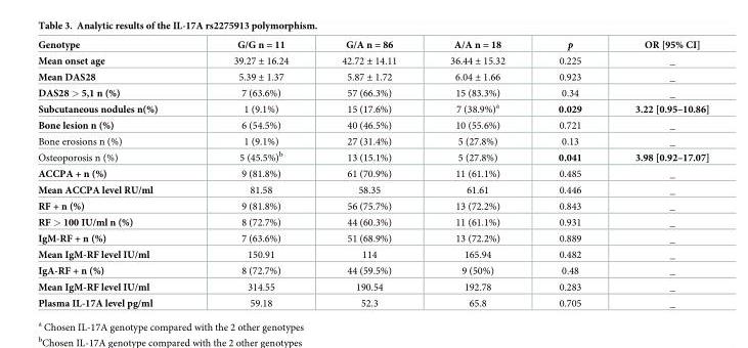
<table><thead><tr><td>Genotype</td><td>G/G n = 11</td><td>G/A n = 86</td><td>A/A n = 18</td><td>p</td><td>OR [95% CI]</td></tr></thead><tbody><tr><td>Mean onset age</td><td>39.27 ± 16.24</td><td>42.72 ± 14.11</td><td>36.44 ± 15.32</td><td>0.225</td><td>_</td></tr><tr><td>Mean DAS28</td><td>5.39 ± 1.37</td><td>5.87 ± 1.72</td><td>6.04 ± 1.66</td><td>0.923</td><td>_</td></tr><tr><td>DAS28 &gt; 5,1 n (%)</td><td>7 (63.6%)</td><td>57 (66.3%)</td><td>15 (83.3%)</td><td>0.34</td><td>_</td></tr><tr><td>Subcutaneous nodules n(%)</td><td>1 (9.1%)</td><td>15 (17.6%)</td><td>7 (38.9%)<sup>a</sup></td><td>0.029</td><td>3.22 [0.95–10.86]</td></tr><tr><td>Bone lesion n (%)</td><td>6 (54.5%)</td><td>40 (46.5%)</td><td>10 (55.6%)</td><td>0.721</td><td>_</td></tr><tr><td>Bone erosions n (%)</td><td>1 (9.1%)</td><td>27 (31.4%)</td><td>5 (27.8%)</td><td>0.13</td><td>_</td></tr><tr><td>Osteoporosis n (%)</td><td>5 (45.5%)<sup>b</sup></td><td>13 (15.1%)</td><td>5 (27.8%)</td><td>0.041</td><td>3.98 [0.92–17.07]</td></tr><tr><td>ACCPA + n (%)</td><td>9 (81.8%)</td><td>61 (70.9%)</td><td>11 (61.1%)</td><td>0.485</td><td>_</td></tr><tr><td>Mean ACCPA level RU/ml</td><td>81.58</td><td>58.35</td><td>61.61</td><td>0.446</td><td>_</td></tr><tr><td>RF + n (%)</td><td>9 (81.8%)</td><td>56 (75.7%)</td><td>13 (72.2%)</td><td>0.843</td><td>_</td></tr><tr><td>RF &gt; 100 IU/ml n (%)</td><td>8 (72.7%)</td><td>44 (60.3%)</td><td>11 (61.1%)</td><td>0.931</td><td>_</td></tr><tr><td>IgM-RF + n (%)</td><td>7 (63.6%)</td><td>51 (68.9%)</td><td>13 (72.2%)</td><td>0.889</td><td>_</td></tr><tr><td>Mean IgM-RF level IU/ml</td><td>150.91</td><td>114</td><td>165.94</td><td>0.482</td><td>_</td></tr><tr><td>IgA-RF + n (%)</td><td>8 (72.7%)</td><td>44 (59.5%)</td><td>9 (50%)</td><td>0.48</td><td>_</td></tr><tr><td>Mean IgM-RF level IU/ml</td><td>314.55</td><td>190.54</td><td>192.78</td><td>0.283</td><td>_</td></tr><tr><td>Plasma IL-17A level pg/ml</td><td>59.18</td><td>52.3</td><td>65.8</td><td>0.705</td><td>_</td></tr></tbody></table>